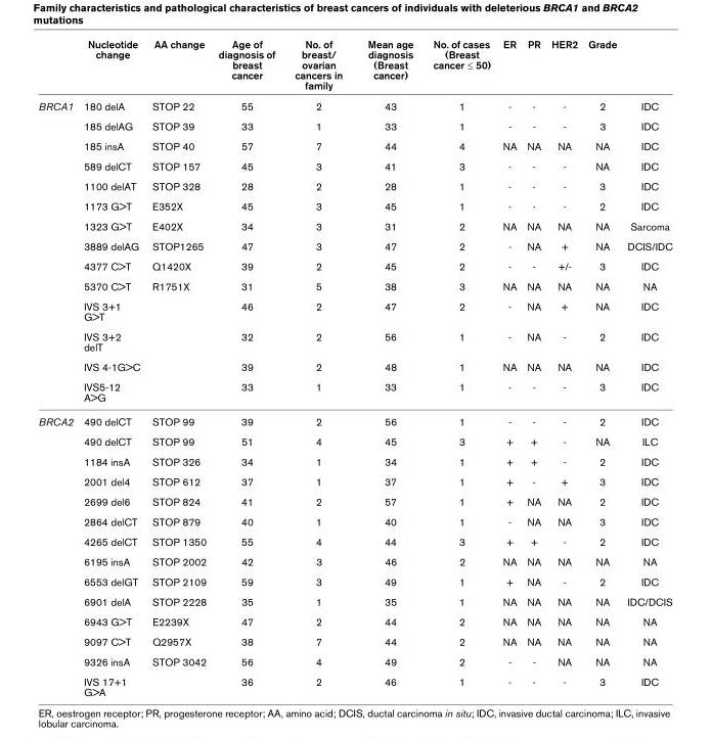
<table><thead><tr><td></td><td>Nucleotide change</td><td>AA change</td><td>Age of diagnosis of breast cancer</td><td>No. of breast/ ovarian cancers in family</td><td>Mean age diagnosis (Breast cancer)</td><td>No. of cases (Breast cancer ≤ 50)</td><td>ER</td><td>PR</td><td>HER2</td><td>Grade</td><td></td></tr></thead><tbody><tr><td rowspan="14">BRCA1</td><td>180 delA</td><td>STOP 22</td><td>55</td><td>2</td><td>43</td><td>1</td><td>-</td><td>-</td><td>-</td><td>2</td><td>IDC</td></tr><tr><td>185 delAG</td><td>STOP 39</td><td>33</td><td>1</td><td>33</td><td>1</td><td>-</td><td>-</td><td>-</td><td>3</td><td>IDC</td></tr><tr><td>185 insA</td><td>STOP 40</td><td>57</td><td>7</td><td>44</td><td>4</td><td>NA</td><td>NA</td><td>NA</td><td>NA</td><td>IDC</td></tr><tr><td>589 delCT</td><td>STOP 157</td><td>45</td><td>3</td><td>41</td><td>3</td><td>-</td><td>-</td><td>-</td><td>NA</td><td>IDC</td></tr><tr><td>1100 delAT</td><td>STOP 328</td><td>28</td><td>2</td><td>28</td><td>1</td><td>-</td><td>-</td><td>-</td><td>3</td><td>IDC</td></tr><tr><td>1173 G&gt;T</td><td>E352X</td><td>45</td><td>3</td><td>45</td><td>1</td><td>-</td><td>-</td><td>-</td><td>2</td><td>IDC</td></tr><tr><td>1323 G&gt;T</td><td>E402X</td><td>34</td><td>3</td><td>31</td><td>2</td><td>NA</td><td>NA</td><td>NA</td><td>NA</td><td>Sarcoma</td></tr><tr><td>3889 delAG</td><td>STOP1265</td><td>47</td><td>3</td><td>47</td><td>2</td><td>-</td><td>NA</td><td>+</td><td>NA</td><td>DCIS/IDC</td></tr><tr><td>4377 C&gt;T</td><td>Q1420X</td><td>39</td><td>2</td><td>45</td><td>2</td><td>-</td><td>-</td><td>+/-</td><td>3</td><td>IDC</td></tr><tr><td>5370 C&gt;T</td><td>R1751X</td><td>31</td><td>5</td><td>38</td><td>3</td><td>NA</td><td>NA</td><td>NA</td><td>NA</td><td>NA</td></tr><tr><td>IVS 3+1 G&gt;T</td><td></td><td>46</td><td>2</td><td>47</td><td>2</td><td>-</td><td>NA</td><td>+</td><td>NA</td><td>IDC</td></tr><tr><td>IVS 3+2 delT</td><td></td><td>32</td><td>2</td><td>56</td><td>1</td><td>-</td><td>NA</td><td>-</td><td>2</td><td>IDC</td></tr><tr><td>IVS 4-1G&gt;C</td><td></td><td>39</td><td>2</td><td>48</td><td>1</td><td>NA</td><td>NA</td><td>NA</td><td>NA</td><td>IDC</td></tr><tr><td>IVS5-12 A&gt;G</td><td></td><td>33</td><td>1</td><td>33</td><td>1</td><td>-</td><td>-</td><td>-</td><td>3</td><td>IDC</td></tr><tr><td rowspan="14">BRCA2</td><td>490 delCT</td><td>STOP 99</td><td>39</td><td>2</td><td>56</td><td>1</td><td>-</td><td>-</td><td>-</td><td>2</td><td>IDC</td></tr><tr><td>490 delCT</td><td>STOP 99</td><td>51</td><td>4</td><td>45</td><td>3</td><td>+</td><td>+</td><td>-</td><td>NA</td><td>ILC</td></tr><tr><td>1184 insA</td><td>STOP 326</td><td>34</td><td>1</td><td>34</td><td>1</td><td>+</td><td>+</td><td>-</td><td>2</td><td>IDC</td></tr><tr><td>2001 del4</td><td>STOP 612</td><td>37</td><td>1</td><td>37</td><td>1</td><td>+</td><td>-</td><td>+</td><td>3</td><td>IDC</td></tr><tr><td>2699 del6</td><td>STOP 824</td><td>41</td><td>2</td><td>57</td><td>1</td><td>+</td><td>NA</td><td>NA</td><td>2</td><td>IDC</td></tr><tr><td>2864 delCT</td><td>STOP 879</td><td>40</td><td>1</td><td>40</td><td>1</td><td>-</td><td>NA</td><td>NA</td><td>3</td><td>IDC</td></tr><tr><td>4265 delCT</td><td>STOP 1350</td><td>55</td><td>4</td><td>44</td><td>3</td><td>+</td><td>+</td><td>-</td><td>2</td><td>IDC</td></tr><tr><td>6195 insA</td><td>STOP 2002</td><td>42</td><td>3</td><td>46</td><td>2</td><td>NA</td><td>NA</td><td>NA</td><td>NA</td><td>NA</td></tr><tr><td>6553 delGT</td><td>STOP 2109</td><td>59</td><td>3</td><td>49</td><td>1</td><td>+</td><td>NA</td><td>-</td><td>2</td><td>IDC</td></tr><tr><td>6901 delA</td><td>STOP 2228</td><td>35</td><td>1</td><td>35</td><td>1</td><td>NA</td><td>NA</td><td>NA</td><td>NA</td><td>IDC/DCIS</td></tr><tr><td>6943 G&gt;T</td><td>E2239X</td><td>47</td><td>2</td><td>44</td><td>2</td><td>NA</td><td>NA</td><td>NA</td><td>NA</td><td>NA</td></tr><tr><td>9097 C&gt;T</td><td>Q2957X</td><td>38</td><td>7</td><td>44</td><td>2</td><td>NA</td><td>NA</td><td>NA</td><td>NA</td><td>NA</td></tr><tr><td>9326 insA</td><td>STOP 3042</td><td>56</td><td>4</td><td>49</td><td>2</td><td>-</td><td>-</td><td>NA</td><td>NA</td><td>NA</td></tr><tr><td>IVS 17+1 G&gt;A</td><td></td><td>36</td><td>2</td><td>46</td><td>1</td><td>-</td><td>-</td><td>-</td><td>3</td><td>IDC</td></tr></tbody></table>